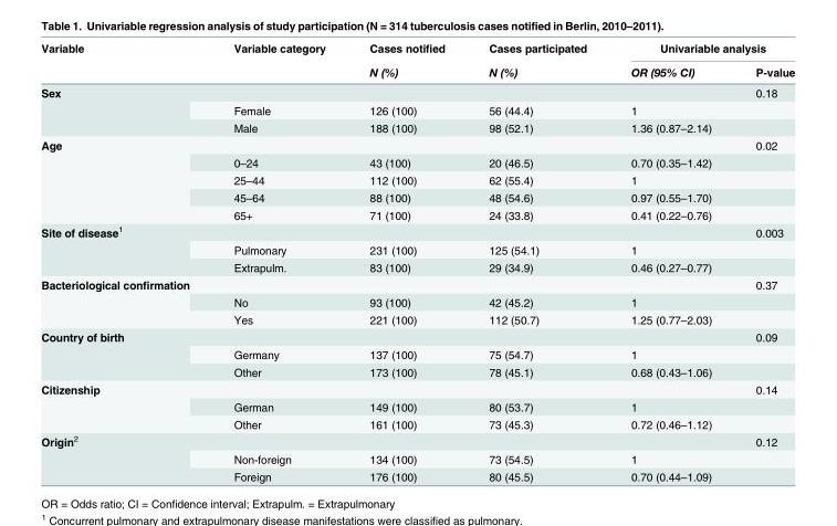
<table><thead><tr><td rowspan="2">Variable</td><td rowspan="2">Variable category</td><td rowspan="2">Cases notified N (%)</td><td rowspan="2">Cases participated N (%)</td><td colspan="2">Univariable analysis</td></tr><tr><td>OR (95% CI)</td><td>P-value</td></tr></thead><tbody><tr><td rowspan="3">Sex</td><td></td><td></td><td></td><td></td><td>0.18</td></tr><tr><td>Female</td><td>126 (100)</td><td>56 (44.4)</td><td>1</td><td></td></tr><tr><td>Male</td><td>188 (100)</td><td>98 (52.1)</td><td>1.36 (0.87–2.14)</td><td></td></tr><tr><td rowspan="5">Age</td><td></td><td></td><td></td><td></td><td>0.02</td></tr><tr><td>0–24</td><td>43 (100)</td><td>20 (46.5)</td><td>0.70 (0.35–1.42)</td><td></td></tr><tr><td>25–44</td><td>112 (100)</td><td>62 (55.4)</td><td>1</td><td></td></tr><tr><td>45–64</td><td>88 (100)</td><td>48 (54.6)</td><td>0.97 (0.55–1.70)</td><td></td></tr><tr><td>65+</td><td>71 (100)</td><td>24 (33.8)</td><td>0.41 (0.22–0.76)</td><td></td></tr><tr><td rowspan="3">Site of disease<sup>1</sup></td><td></td><td></td><td></td><td></td><td>0.003</td></tr><tr><td>Pulmonary</td><td>231 (100)</td><td>125 (54.1)</td><td>1</td><td></td></tr><tr><td>Extrapulm.</td><td>83 (100)</td><td>29 (34.9)</td><td>0.46 (0.27–0.77)</td><td></td></tr><tr><td rowspan="3">Bacteriological confirmation</td><td></td><td></td><td></td><td></td><td>0.37</td></tr><tr><td>No</td><td>93 (100)</td><td>42 (45.2)</td><td>1</td><td></td></tr><tr><td>Yes</td><td>221 (100)</td><td>112 (50.7)</td><td>1.25 (0.77–2.03)</td><td></td></tr><tr><td rowspan="3">Country of birth</td><td></td><td></td><td></td><td></td><td>0.09</td></tr><tr><td>Germany</td><td>137 (100)</td><td>75 (54.7)</td><td>1</td><td></td></tr><tr><td>Other</td><td>173 (100)</td><td>78 (45.1)</td><td>0.68 (0.43–1.06)</td><td></td></tr><tr><td rowspan="3">Citizenship</td><td></td><td></td><td></td><td></td><td>0.14</td></tr><tr><td>German</td><td>149 (100)</td><td>80 (53.7)</td><td>1</td><td></td></tr><tr><td>Other</td><td>161 (100)</td><td>73 (45.3)</td><td>0.72 (0.46–1.12)</td><td></td></tr><tr><td rowspan="3">Origin<sup>2</sup></td><td></td><td></td><td></td><td></td><td>0.12</td></tr><tr><td>Non-foreign</td><td>134 (100)</td><td>73 (54.5)</td><td>1</td><td></td></tr><tr><td>Foreign</td><td>176 (100)</td><td>80 (45.5)</td><td>0.70 (0.44–1.09)</td><td></td></tr></tbody></table>